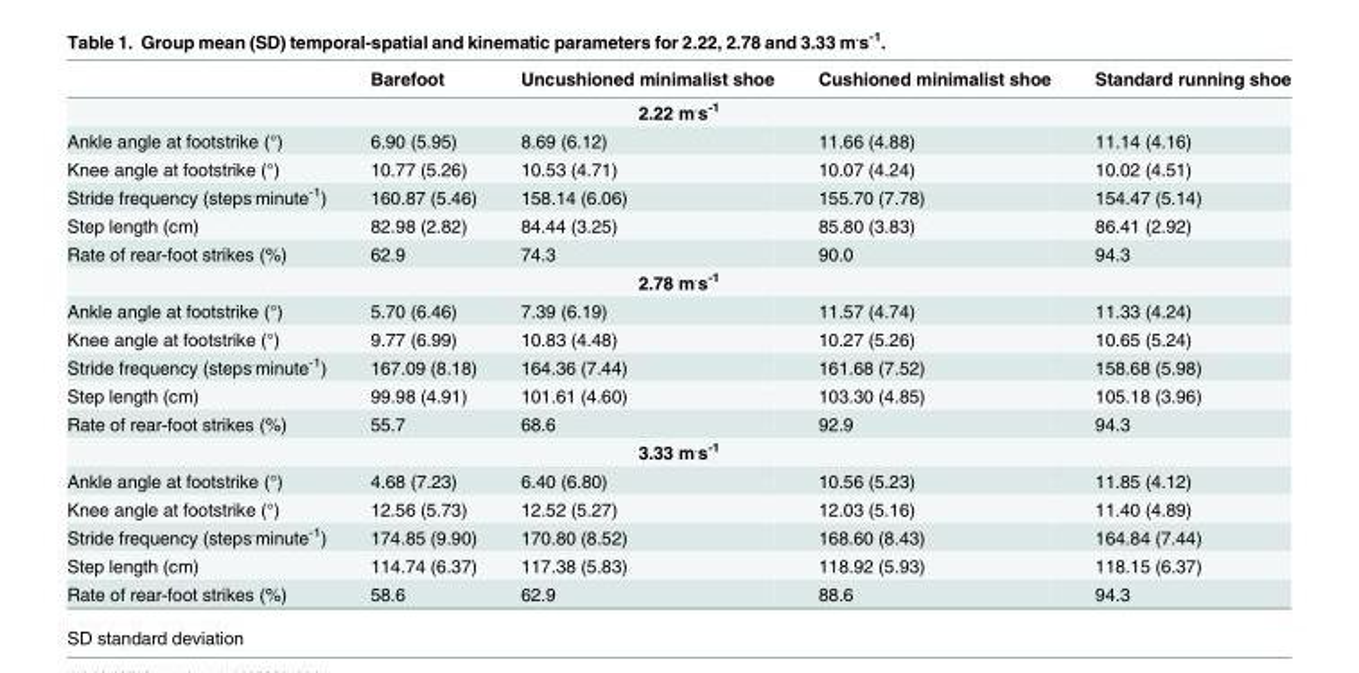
<table><thead><tr><td></td><td>Barefoot</td><td>Uncushioned minimalist shoe</td><td>Cushioned minimalist shoe</td><td>Standard running shoe</td></tr></thead><tbody><tr><td colspan="5">2.22 m<sup>.</sup>s<sup>-1</sup></td></tr><tr><td>Ankle angle at footstrike (°)</td><td>6.90 (5.95)</td><td>8.69 (6.12)</td><td>11.66 (4.88)</td><td>11.14 (4.16)</td></tr><tr><td>Knee angle at footstrike (°)</td><td>10.77 (5.26)</td><td>10.53 (4.71)</td><td>10.07 (4.24)</td><td>10.02 (4.51)</td></tr><tr><td>Stride frequency (steps<sup>.</sup>minute<sup>-1</sup>)</td><td>160.87 (5.46)</td><td>158.14 (6.06)</td><td>155.70 (7.78)</td><td>154.47 (5.14)</td></tr><tr><td>Step length (cm)</td><td>82.98 (2.82)</td><td>84.44 (3.25)</td><td>85.80 (3.83)</td><td>86.41 (2.92)</td></tr><tr><td>Rate of rear-foot strikes (%)</td><td>62.9</td><td>74.3</td><td>90.0</td><td>94.3</td></tr><tr><td colspan="5">2.78 m<sup>.</sup>s<sup>-1</sup></td></tr><tr><td>Ankle angle at footstrike (°)</td><td>5.70 (6.46)</td><td>7.39 (6.19)</td><td>11.57 (4.74)</td><td>11.33 (4.24)</td></tr><tr><td>Knee angle at footstrike (°)</td><td>9.77 (6.99)</td><td>10.83 (4.48)</td><td>10.27 (5.26)</td><td>10.65 (5.24)</td></tr><tr><td>Stride frequency (steps<sup>.</sup>minute<sup>-1</sup>)</td><td>167.09 (8.18)</td><td>164.36 (7.44)</td><td>161.68 (7.52)</td><td>158.68 (5.98)</td></tr><tr><td>Step length (cm)</td><td>99.98 (4.91)</td><td>101.61 (4.60)</td><td>103.30 (4.85)</td><td>105.18 (3.96)</td></tr><tr><td>Rate of rear-foot strikes (%)</td><td>55.7</td><td>68.6</td><td>92.9</td><td>94.3</td></tr><tr><td colspan="5">3.33 m<sup>.</sup>s<sup>-1</sup></td></tr><tr><td>Ankle angle at footstrike (°)</td><td>4.68 (7.23)</td><td>6.40 (6.80)</td><td>10.56 (5.23)</td><td>11.85 (4.12)</td></tr><tr><td>Knee angle at footstrike (°)</td><td>12.56 (5.73)</td><td>12.52 (5.27)</td><td>12.03 (5.16)</td><td>11.40 (4.89)</td></tr><tr><td>Stride frequency (steps<sup>.</sup>minute<sup>-1</sup>)</td><td>174.85 (9.90)</td><td>170.80 (8.52)</td><td>168.60 (8.43)</td><td>164.84 (7.44)</td></tr><tr><td>Step length (cm)</td><td>114.74 (6.37)</td><td>117.38 (5.83)</td><td>118.92 (5.93)</td><td>118.15 (6.37)</td></tr><tr><td>Rate of rear-foot strikes (%)</td><td>58.6</td><td>62.9</td><td>88.6</td><td>94.3</td></tr></tbody></table>